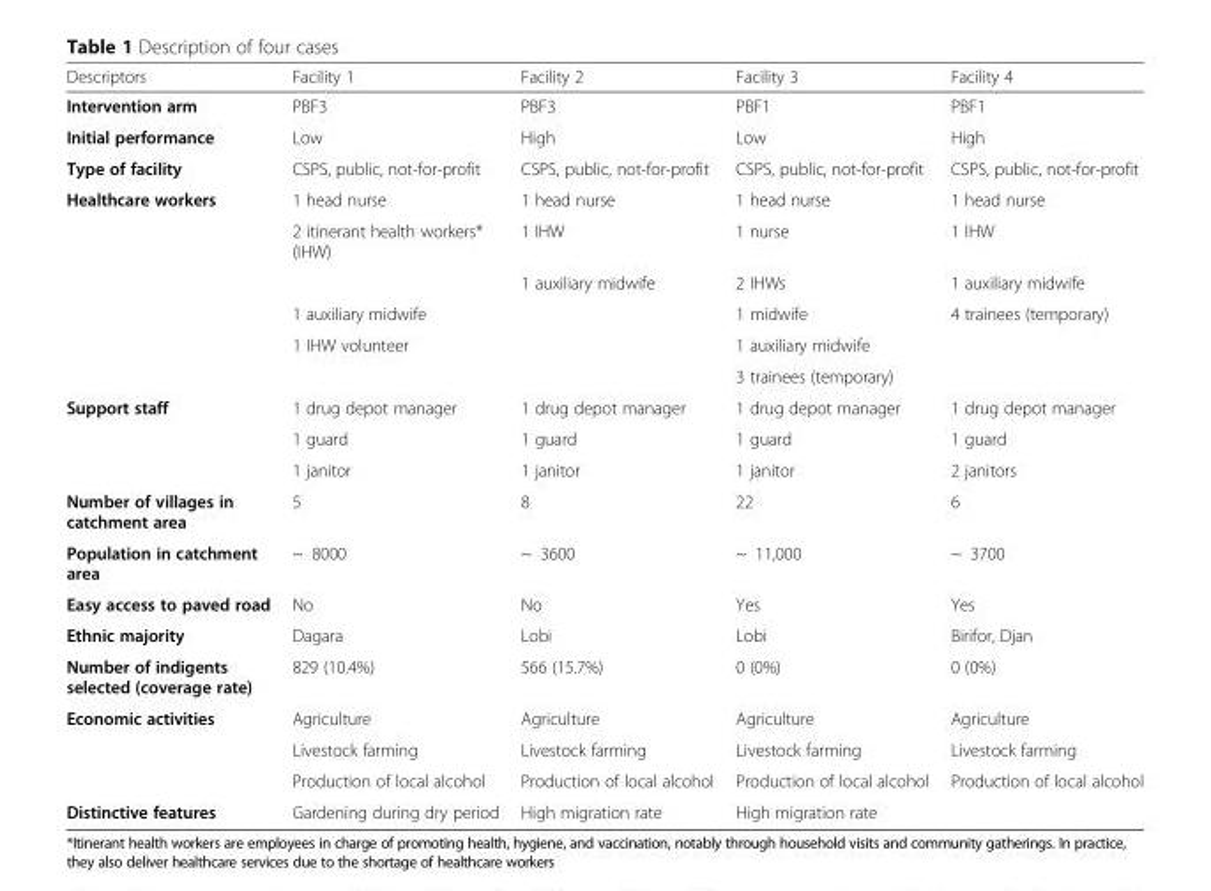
<table><thead><tr><td>Descriptors</td><td>Facility 1</td><td>Facility 2</td><td>Facility 3</td><td>Facility 4</td></tr></thead><tbody><tr><td>Intervention arm</td><td>PBF3</td><td>PBF3</td><td>PBF1</td><td>PBF1</td></tr><tr><td>Initial performance</td><td>Low</td><td>High</td><td>Low</td><td>High</td></tr><tr><td>Type of facility</td><td>CSPS, public, not-for-profit</td><td>CSPS, public, not-for-profit</td><td>CSPS, public, not-for-profit</td><td>CSPS, public, not-for-profit</td></tr><tr><td rowspan="6">Healthcare workers</td><td>1 head nurse</td><td>1 head nurse</td><td>1 head nurse</td><td>1 head nurse</td></tr><tr><td>2 itinerant health workers* (IHW)</td><td>1 IHW</td><td>1 nurse</td><td>1 IHW</td></tr><tr><td></td><td>1 auxiliary midwife</td><td>2 IHWs</td><td>1 auxiliary midwife</td></tr><tr><td>1 auxiliary midwife</td><td></td><td>1 midwife</td><td>4 trainees (temporary)</td></tr><tr><td>1 IHW volunteer</td><td></td><td>1 auxiliary midwife</td><td></td></tr><tr><td></td><td></td><td>3 trainees (temporary)</td><td></td></tr><tr><td rowspan="3">Support staff</td><td>1 drug depot manager</td><td>1 drug depot manager</td><td>1 drug depot manager</td><td>1 drug depot manager</td></tr><tr><td>1 guard</td><td>1 guard</td><td>1 guard</td><td>1 guard</td></tr><tr><td>1 janitor</td><td>1 janitor</td><td>1 janitor</td><td>2 janitors</td></tr><tr><td>Number of villages in catchment area</td><td>5</td><td>8</td><td>22</td><td>6</td></tr><tr><td>Population in catchment area</td><td>~ 8000</td><td>~ 3600</td><td>~ 11,000</td><td>~ 3700</td></tr><tr><td>Easy access to paved road</td><td>No</td><td>No</td><td>Yes</td><td>Yes</td></tr><tr><td>Ethnic majority</td><td>Dagara</td><td>Lobi</td><td>Lobi</td><td>Birifor, Djan</td></tr><tr><td>Number of indigents selected (coverage rate)</td><td>829 (10.4%)</td><td>566 (15.7%)</td><td>0 (0%)</td><td>0 (0%)</td></tr><tr><td rowspan="3">Economic activities</td><td>Agriculture</td><td>Agriculture</td><td>Agriculture</td><td>Agriculture</td></tr><tr><td>Livestock farming</td><td>Livestock farming</td><td>Livestock farming</td><td>Livestock farming</td></tr><tr><td>Production of local alcohol</td><td>Production of local alcohol</td><td>Production of local alcohol</td><td>Production of local alcohol</td></tr><tr><td>Distinctive features</td><td>Gardening during dry period</td><td>High migration rate</td><td>High migration rate</td><td></td></tr></tbody></table>